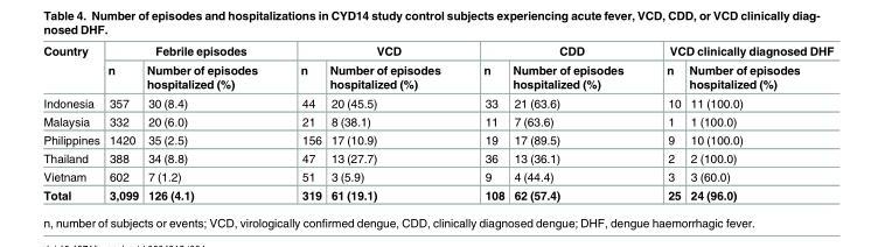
<table><thead><tr><td rowspan="2">Country</td><td colspan="2">Febrile episodes</td><td colspan="2">VCD</td><td colspan="2">CDD</td><td colspan="2">VCD clinically diagnosed DHF</td></tr><tr><td>n</td><td>Number of episodes hospitalized (%)</td><td>n</td><td>Number of episodes hospitalized (%)</td><td>n</td><td>Number of episodes hospitalized (%)</td><td>n</td><td>Number of episodes hospitalized (%)</td></tr></thead><tbody><tr><td>Indonesia</td><td>357</td><td>30 (8.4)</td><td>44</td><td>20 (45.5)</td><td>33</td><td>21 (63.6)</td><td>10</td><td>11 (100.0)</td></tr><tr><td>Malaysia</td><td>332</td><td>20 (6.0)</td><td>21</td><td>8 (38.1)</td><td>11</td><td>7 (63.6)</td><td>1</td><td>1 (100.0)</td></tr><tr><td>Philippines</td><td>1420</td><td>35 (2.5)</td><td>156</td><td>17 (10.9)</td><td>19</td><td>17 (89.5)</td><td>9</td><td>10 (100.0)</td></tr><tr><td>Thailand</td><td>388</td><td>34 (8.8)</td><td>47</td><td>13 (27.7)</td><td>36</td><td>13 (36.1)</td><td>2</td><td>2 (100.0)</td></tr><tr><td>Vietnam</td><td>602</td><td>7 (1.2)</td><td>51</td><td>3 (5.9)</td><td>9</td><td>4 (44.4)</td><td>3</td><td>3 (60.0)</td></tr><tr><td>Total</td><td>3,099</td><td>126 (4.1)</td><td>319</td><td>61 (19.1)</td><td>108</td><td>62 (57.4)</td><td>25</td><td>24 (96.0)</td></tr></tbody></table>